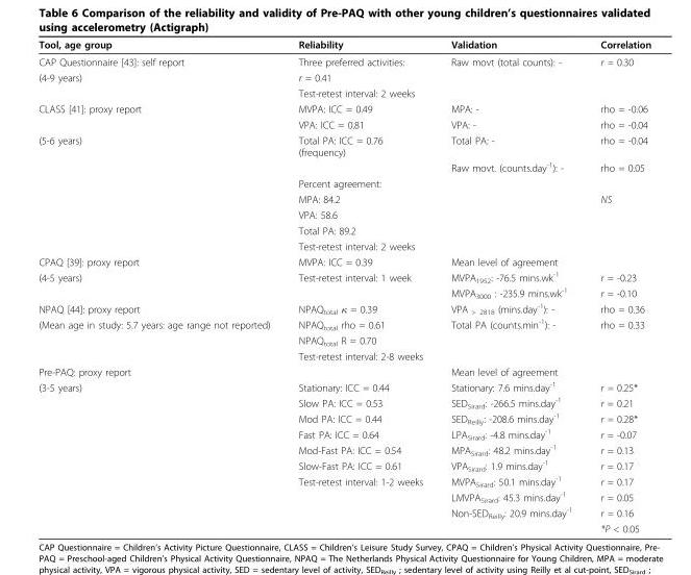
<table><thead><tr><td>Tool, age group</td><td>Reliability</td><td>Validation</td><td>Correlation</td></tr></thead><tbody><tr><td>CAP Questionnaire [43]: self report</td><td>Three preferred activities:</td><td>Raw movt (total counts): -</td><td>r = 0.30</td></tr><tr><td rowspan="2">(4-9 years)</td><td>r = 0.41</td><td></td><td></td></tr><tr><td>Test-retest interval: 2 weeks</td><td></td><td></td></tr><tr><td rowspan="2">CLASS [41]: proxy report</td><td>MVPA: ICC = 0.49</td><td>MPA: -</td><td>rho = -0.06</td></tr><tr><td>VPA: ICC = 0.81</td><td>VPA: -</td><td>rho = -0.04</td></tr><tr><td rowspan="7">(5-6 years)</td><td>Total PA: ICC = 0.76 (frequency)</td><td>Total PA: -</td><td>rho = -0.04</td></tr><tr><td></td><td>Raw movt. (counts.day<sup>-1</sup>): -</td><td>rho = 0.05</td></tr><tr><td>Percent agreement:</td><td></td><td></td></tr><tr><td>MPA: 84.2</td><td></td><td>NS</td></tr><tr><td>VPA: 58.6</td><td></td><td></td></tr><tr><td>Total PA: 89.2</td><td></td><td></td></tr><tr><td>Test-retest interval: 2 weeks</td><td></td><td></td></tr><tr><td>CPAQ [39]: proxy report</td><td>MVPA: ICC = 0.39</td><td>Mean level of agreement</td><td></td></tr><tr><td rowspan="2">(4-5 years)</td><td>Test-retest interval: 1 week</td><td>MVPA<sub>1952</sub>: -76.5 mins.wk<sup>-1</sup></td><td>r = -0.23</td></tr><tr><td></td><td>MVPA<sub>3000</sub> : -235.9 mins.wk<sup>-1</sup></td><td>r = -0.10</td></tr><tr><td>NPAQ [44]: proxy report</td><td>NPAQ<sub>total</sub> κ = 0.39</td><td>VPA <sub>&gt; 2818</sub> (mins.day<sup>-1</sup>): -</td><td>rho = 0.36</td></tr><tr><td rowspan="3">(Mean age in study: 5.7 years: age range not reported)</td><td>NPAQ<sub>total</sub> rho = 0.61</td><td>Total PA (counts.min<sup>-1</sup>): -</td><td>rho = 0.33</td></tr><tr><td>NPAQ<sub>total</sub> R = 0.70</td><td></td><td></td></tr><tr><td>Test-retest interval: 2-8 weeks</td><td></td><td></td></tr><tr><td>Pre-PAQ: proxy report</td><td></td><td>Mean level of agreement</td><td></td></tr><tr><td rowspan="10">(3-5 years)</td><td>Stationary: ICC = 0.44</td><td>Stationary: 7.6 mins.day<sup>-1</sup></td><td>r = 0.25*</td></tr><tr><td>Slow PA: ICC = 0.53</td><td>SED<sub>Sirard</sub>: -266.5 mins.day<sup>-1</sup></td><td>r = 0.21</td></tr><tr><td>Mod PA: ICC = 0.44</td><td>SED<sub>Reilly</sub>: -208.6 mins.day<sup>-1</sup></td><td>r = 0.28*</td></tr><tr><td>Fast PA: ICC = 0.64</td><td>LPA<sub>Sirard</sub>: -4.8 mins.day<sup>-1</sup></td><td>r = -0.07</td></tr><tr><td>Mod-Fast PA: ICC = 0.54</td><td>MPA<sub>Sirard</sub>: 48.2 mins.day<sup>-1</sup></td><td>r = 0.13</td></tr><tr><td>Slow-Fast PA: ICC = 0.61</td><td>VPA<sub>Sirard</sub>: 1.9 mins.day<sup>-1</sup></td><td>r = 0.17</td></tr><tr><td>Test-retest interval: 1-2 weeks</td><td>MVPA<sub>Sirard</sub>: 50.1 mins.day<sup>-1</sup></td><td>r = 0.17</td></tr><tr><td></td><td>LMVPA<sub>Sirard</sub>: 45.3 mins.day<sup>-1</sup></td><td>r = 0.05</td></tr><tr><td></td><td>Non-SED<sub>Reilly</sub>: 20.9 mins.day<sup>-1</sup></td><td>r = 0.16</td></tr><tr><td></td><td></td><td>*P &lt; 0.05</td></tr></tbody></table>